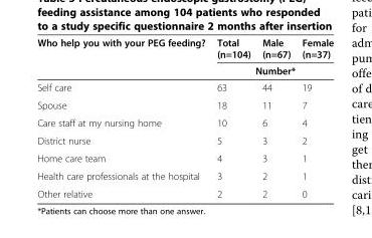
<table><thead><tr><td rowspan="2">Who help you with your PEG feeding?</td><td>Total (n=104)</td><td>Male (n=67)</td><td>Female (n=37)</td></tr><tr><td colspan="3">Number*</td></tr></thead><tbody><tr><td>Self care</td><td>63</td><td>44</td><td>19</td></tr><tr><td>Spouse</td><td>18</td><td>11</td><td>7</td></tr><tr><td>Care staff at my nursing home</td><td>10</td><td>6</td><td>4</td></tr><tr><td>District nurse</td><td>5</td><td>3</td><td>2</td></tr><tr><td>Home care team</td><td>4</td><td>3</td><td>1</td></tr><tr><td>Health care professionals at the hospital</td><td>3</td><td>2</td><td>1</td></tr><tr><td>Other relative</td><td>2</td><td>2</td><td>0</td></tr></tbody></table>